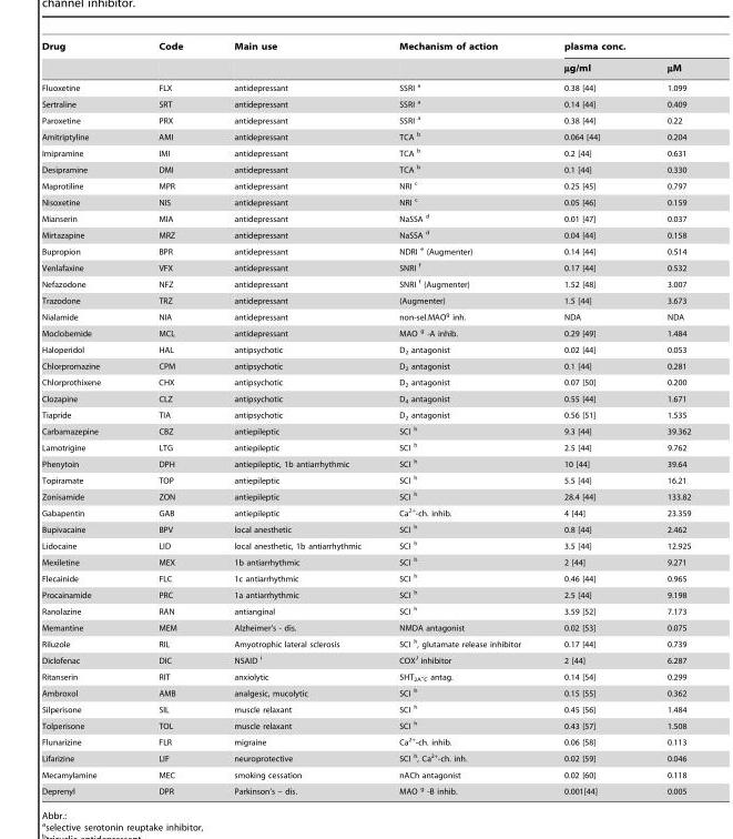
<table><thead><tr><td rowspan="2">Drug</td><td rowspan="2">Code</td><td rowspan="2">Main use</td><td rowspan="2">Mechanism of action</td><td colspan="2">plasma conc.</td></tr><tr><td>µg/ml</td><td>µM</td></tr></thead><tbody><tr><td>Fluoxetine</td><td>FLX</td><td>antidepressant</td><td>SSRI a</td><td>0.38 [44]</td><td>1.099</td></tr><tr><td>Sertraline</td><td>SRT</td><td>antidepressant</td><td>SSRI a</td><td>0.14 [44]</td><td>0.409</td></tr><tr><td>Paroxetine</td><td>PRX</td><td>antidepressant</td><td>SSRI a</td><td>0.38 [44]</td><td>0.22</td></tr><tr><td>Amitriptyline</td><td>AMI</td><td>antidepressant</td><td>TCA b</td><td>0.064 [44]</td><td>0.204</td></tr><tr><td>Imipramine</td><td>IMI</td><td>antidepressant</td><td>TCA b</td><td>0.2 [44]</td><td>0.631</td></tr><tr><td>Desipramine</td><td>DMI</td><td>antidepressant</td><td>TCA b</td><td>0.1 [44]</td><td>0.330</td></tr><tr><td>Maprotiline</td><td>MPR</td><td>antidepressant</td><td>NRI c</td><td>0.25 [45]</td><td>0.797</td></tr><tr><td>Nisoxetine</td><td>NIS</td><td>antidepressant</td><td>NRI c</td><td>0.05 [46]</td><td>0.159</td></tr><tr><td>Mianserin</td><td>MIA</td><td>antidepressant</td><td>NaSSA d</td><td>0.01 [47]</td><td>0.037</td></tr><tr><td>Mirtazapine</td><td>MRZ</td><td>antidepressant</td><td>NaSSA d</td><td>0.04 [44]</td><td>0.158</td></tr><tr><td>Bupropion</td><td>BPR</td><td>antidepressant</td><td>NDRI e (Augmenter)</td><td>0.14 [44]</td><td>0.514</td></tr><tr><td>Venlafaxine</td><td>VFX</td><td>antidepressant</td><td>SNRI f</td><td>0.17 [44]</td><td>0.532</td></tr><tr><td>Nefazodone</td><td>NFZ</td><td>antidepressant</td><td>SNRI f (Augmenter)</td><td>1.52 [48]</td><td>3.007</td></tr><tr><td>Trazodone</td><td>TRZ</td><td>antidepressant</td><td>(Augmenter)</td><td>1.5 [44]</td><td>3.673</td></tr><tr><td>Nialamide</td><td>NIA</td><td>antidepressant</td><td>non-sel.MAO<sup>g</sup> inh.</td><td>NDA</td><td>NDA</td></tr><tr><td>Moclobemide</td><td>MCL</td><td>antidepressant</td><td>MAO g -A inhib.</td><td>0.29 [49]</td><td>1.484</td></tr><tr><td>Haloperidol</td><td>HAL</td><td>antipsychotic</td><td>D<sub>2</sub> antagonist</td><td>0.02 [44]</td><td>0.053</td></tr><tr><td>Chlorpromazine</td><td>CPM</td><td>antipsychotic</td><td>D<sub>2</sub> antagonist</td><td>0.1 [44]</td><td>0.281</td></tr><tr><td>Chlorprothixene</td><td>CHX</td><td>antipsychotic</td><td>D<sub>2</sub> antagonist</td><td>0.07 [50]</td><td>0.200</td></tr><tr><td>Clozapine</td><td>CLZ</td><td>antipsychotic</td><td>D<sub>4</sub> antagonist</td><td>0.55 [44]</td><td>1.671</td></tr><tr><td>Tiapride</td><td>TIA</td><td>antipsychotic</td><td>D<sub>2</sub> antagonist</td><td>0.56 [51]</td><td>1.535</td></tr><tr><td>Carbamazepine</td><td>CBZ</td><td>antiepileptic</td><td>SCI h</td><td>9.3 [44]</td><td>39.362</td></tr><tr><td>Lamotrigine</td><td>LTG</td><td>antiepileptic</td><td>SCI h</td><td>2.5 [44]</td><td>9.762</td></tr><tr><td>Phenytoin</td><td>DPH</td><td>antiepileptic, 1b antiarrhythmic</td><td>SCI h</td><td>10 [44]</td><td>39.64</td></tr><tr><td>Topiramate</td><td>TOP</td><td>antiepileptic</td><td>SCI h</td><td>5.5 [44]</td><td>16.21</td></tr><tr><td>Zonisamide</td><td>ZON</td><td>antiepileptic</td><td>SCI h</td><td>28.4 [44]</td><td>133.82</td></tr><tr><td>Gabapentin</td><td>GAB</td><td>antiepileptic</td><td>Ca<sup>2+</sup>-ch. inhib.</td><td>4 [44]</td><td>23.359</td></tr><tr><td>Bupivacaine</td><td>BPV</td><td>local anesthetic</td><td>SCI h</td><td>0.8 [44]</td><td>2.462</td></tr><tr><td>Lidocaine</td><td>LID</td><td>local anesthetic, 1b antiarrhythmic</td><td>SCI h</td><td>3.5 [44]</td><td>12.925</td></tr><tr><td>Mexiletine</td><td>MEX</td><td>1b antiarrhythmic</td><td>SCI h</td><td>2 [44]</td><td>9.271</td></tr><tr><td>Flecainide</td><td>FLC</td><td>1c antiarrhythmic</td><td>SCI h</td><td>0.46 [44]</td><td>0.965</td></tr><tr><td>Procainamide</td><td>PRC</td><td>1a antiarrhythmic</td><td>SCI h</td><td>2.5 [44]</td><td>9.198</td></tr><tr><td>Ranolazine</td><td>RAN</td><td>antianginal</td><td>SCI h</td><td>3.59 [52]</td><td>7.173</td></tr><tr><td>Memantine</td><td>MEM</td><td>Alzheimer’s - dis.</td><td>NMDA antagonist</td><td>0.02 [53]</td><td>0.075</td></tr><tr><td>Riluzole</td><td>RIL</td><td>Amyotrophic lateral sclerosis</td><td>SCI h, glutamate release inhibitor</td><td>0.17 [44]</td><td>0.739</td></tr><tr><td>Diclofenac</td><td>DIC</td><td>NSAID i</td><td>COX<sup>J</sup> inhibitor</td><td>2 [44]</td><td>6.287</td></tr><tr><td>Ritanserin</td><td>RIT</td><td>anxiolytic</td><td>5HT<sub>2A</sub>-<sub>C</sub> antag.</td><td>0.14 [54]</td><td>0.299</td></tr><tr><td>Ambroxol</td><td>AMB</td><td>analgesic, mucolytic</td><td>SCI h</td><td>0.15 [55]</td><td>0.362</td></tr><tr><td>Silperisone</td><td>SIL</td><td>muscle relaxant</td><td>SCI h</td><td>0.45 [56]</td><td>1.484</td></tr><tr><td>Tolperisone</td><td>TOL</td><td>muscle relaxant</td><td>SCI h</td><td>0.43 [57]</td><td>1.508</td></tr><tr><td>Flunarizine</td><td>FLR</td><td>migraine</td><td>Ca<sup>2+</sup>-ch. inhib.</td><td>0.06 [58]</td><td>0.113</td></tr><tr><td>Lifarizine</td><td>LIF</td><td>neuroprotective</td><td>SCI h, Ca<sup>2+</sup>-ch. inh.</td><td>0.02 [59]</td><td>0.046</td></tr><tr><td>Mecamylamine</td><td>MEC</td><td>smoking cessation</td><td>nACh antagonist</td><td>0.02 [60]</td><td>0.118</td></tr><tr><td>Deprenyl</td><td>DPR</td><td>Parkinson’s – dis.</td><td>MAO g -B inhib.</td><td>0.001[44]</td><td>0.005</td></tr></tbody></table>